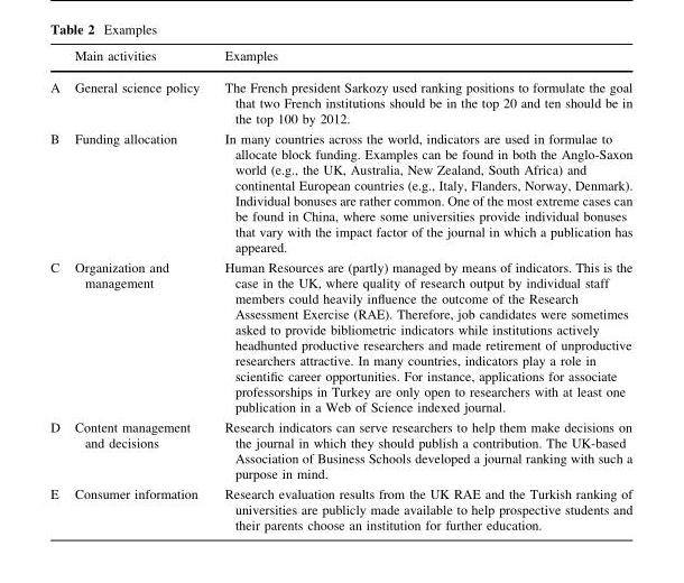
<table><thead><tr><td></td><td>Main activities</td><td>Examples</td></tr></thead><tbody><tr><td>A</td><td>General science policy</td><td>The French president Sarkozy used ranking positions to formulate the goal that two French institutions should be in the top 20 and ten should be in the top 100 by 2012.</td></tr><tr><td>B</td><td>Funding allocation</td><td>In many countries across the world, indicators are used in formulae to allocate block funding. Examples can be found in both the Anglo-Saxon world (e.g., the UK, Australia, New Zealand, South Africa) and continental European countries (e.g., Italy, Flanders, Norway, Denmark). Individual bonuses are rather common. One of the most extreme cases can be found in China, where some universities provide individual bonuses that vary with the impact factor of the journal in which a publication has appeared.</td></tr><tr><td>C</td><td>Organization and management</td><td>Human Resources are (partly) managed by means of indicators. This is the case in the UK, where quality of research output by individual staff members could heavily influence the outcome of the Research Assessment Exercise (RAE). Therefore, job candidates were sometimes asked to provide bibliometric indicators while institutions actively headhunted productive researchers and made retirement of unproductive researchers attractive. In many countries, indicators play a role in scientific career opportunities. For instance, applications for associate professorships in Turkey are only open to researchers with at least one publication in a Web of Science indexed journal.</td></tr><tr><td>D</td><td>Content management and decisions</td><td>Research indicators can serve researchers to help them make decisions on the journal in which they should publish a contribution. The UK-based Association of Business Schools developed a journal ranking with such a purpose in mind.</td></tr><tr><td>E</td><td>Consumer information</td><td>Research evaluation results from the UK RAE and the Turkish ranking of universities are publicly made available to help prospective students and their parents choose an institution for further education.</td></tr></tbody></table>